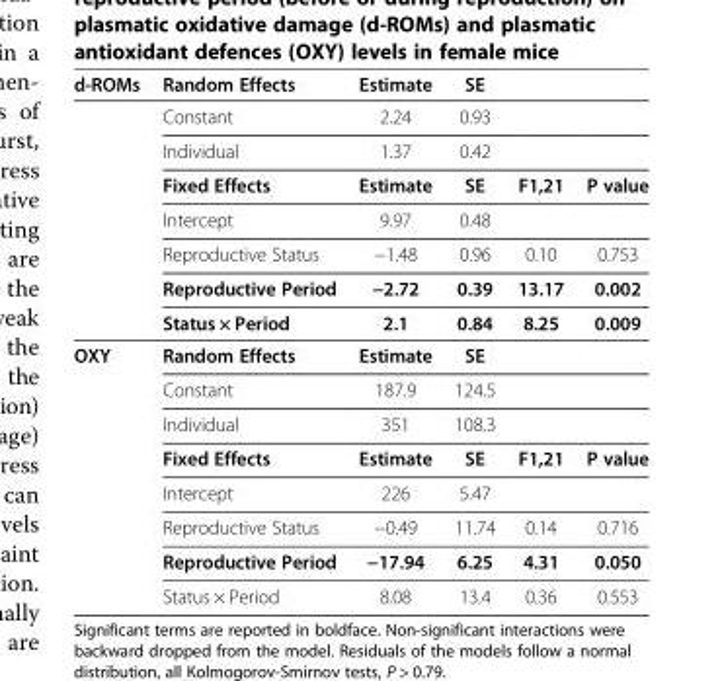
<table><thead><tr><td>d-ROMs</td><td>Random Effects</td><td>Estimate</td><td>SE</td><td></td><td></td></tr></thead><tbody><tr><td></td><td>Constant</td><td>2.24</td><td>0.93</td><td></td><td></td></tr><tr><td></td><td>Individual</td><td>1.37</td><td>0.42</td><td></td><td></td></tr><tr><td></td><td>Fixed Effects</td><td>Estimate</td><td>SE</td><td>F1,21</td><td>P value</td></tr><tr><td></td><td>Intercept</td><td>9.97</td><td>0.48</td><td></td><td></td></tr><tr><td></td><td>Reproductive Status</td><td>−1.48</td><td>0.96</td><td>0.10</td><td>0.753</td></tr><tr><td></td><td>Reproductive Period</td><td>−2.72</td><td>0.39</td><td>13.17</td><td>0.002</td></tr><tr><td></td><td>Status × Period</td><td>2.1</td><td>0.84</td><td>8.25</td><td>0.009</td></tr><tr><td rowspan="8">OXY</td><td>Random Effects</td><td>Estimate</td><td>SE</td><td></td><td></td></tr><tr><td>Constant</td><td>187.9</td><td>124.5</td><td></td><td></td></tr><tr><td>Individual</td><td>351</td><td>108.3</td><td></td><td></td></tr><tr><td>Fixed Effects</td><td>Estimate</td><td>SE</td><td>F1,21</td><td>P value</td></tr><tr><td>Intercept</td><td>226</td><td>5.47</td><td></td><td></td></tr><tr><td>Reproductive Status</td><td>−0.49</td><td>11.74</td><td>0.14</td><td>0.716</td></tr><tr><td>Reproductive Period</td><td>−17.94</td><td>6.25</td><td>4.31</td><td>0.050</td></tr><tr><td>Status × Period</td><td>8.08</td><td>13.4</td><td>0.36</td><td>0.553</td></tr></tbody></table>